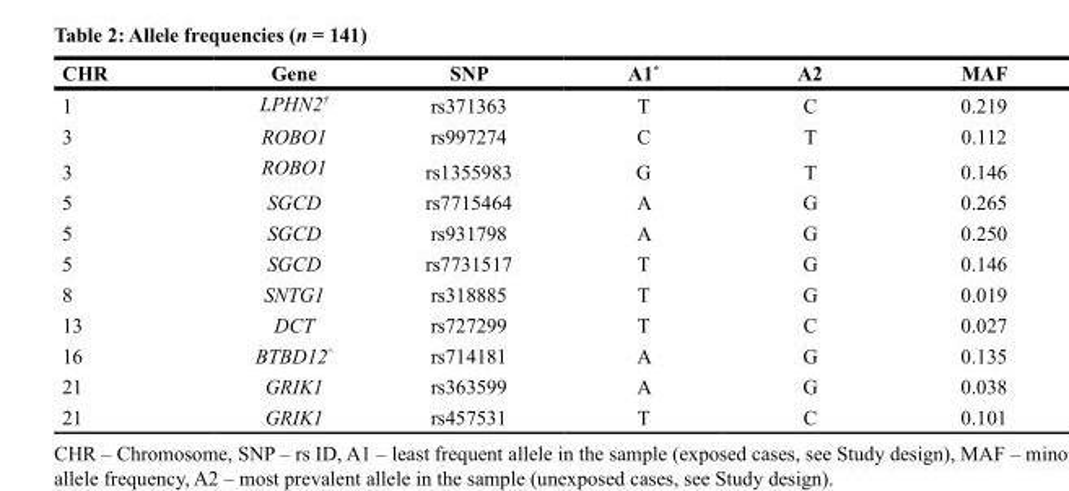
<table><thead><tr><td>CHR</td><td>Gene</td><td>SNP</td><td>A1*</td><td>A2</td><td>MAF</td></tr></thead><tbody><tr><td>1</td><td>LPHN2<sup>†</sup></td><td>rs371363</td><td>T</td><td>C</td><td>0.219</td></tr><tr><td>3</td><td>ROBO1</td><td>rs997274</td><td>C</td><td>T</td><td>0.112</td></tr><tr><td>3</td><td>ROBO1</td><td>rs1355983</td><td>G</td><td>T</td><td>0.146</td></tr><tr><td>5</td><td>SGCD</td><td>rs7715464</td><td>A</td><td>G</td><td>0.265</td></tr><tr><td>5</td><td>SGCD</td><td>rs931798</td><td>A</td><td>G</td><td>0.250</td></tr><tr><td>5</td><td>SGCD</td><td>rs7731517</td><td>T</td><td>G</td><td>0.146</td></tr><tr><td>8</td><td>SNTG1</td><td>rs318885</td><td>T</td><td>G</td><td>0.019</td></tr><tr><td>13</td><td>DCT</td><td>rs727299</td><td>T</td><td>C</td><td>0.027</td></tr><tr><td>16</td><td>BTBD12<sup>^</sup></td><td>rs714181</td><td>A</td><td>G</td><td>0.135</td></tr><tr><td>21</td><td>GRIK1</td><td>rs363599</td><td>A</td><td>G</td><td>0.038</td></tr><tr><td>21</td><td>GRIK1</td><td>rs457531</td><td>T</td><td>C</td><td>0.101</td></tr></tbody></table>